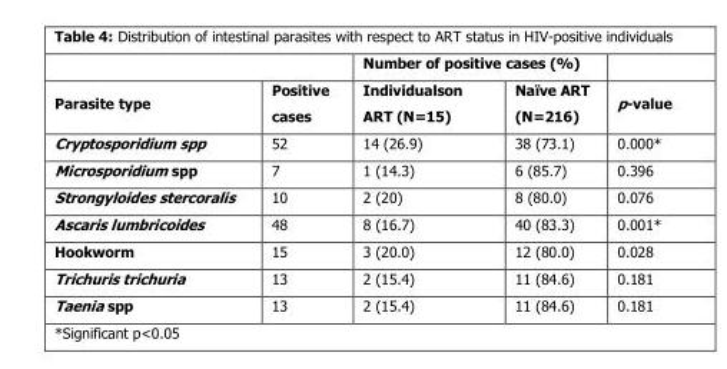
<table><thead><tr><td rowspan="2">Parasite type</td><td rowspan="2">Positive cases</td><td colspan="2">Number of positive cases (%)</td><td rowspan="2">p-value</td></tr><tr><td>Individualson ART (N=15)</td><td>Naïve ART (N=216)</td></tr></thead><tbody><tr><td>Cryptosporidium spp</td><td>52</td><td>14 (26.9)</td><td>38 (73.1)</td><td>0.000*</td></tr><tr><td>Microsporidium spp</td><td>7</td><td>1 (14.3)</td><td>6 (85.7)</td><td>0.396</td></tr><tr><td>Strongyloides stercoralis</td><td>10</td><td>2 (20)</td><td>8 (80.0)</td><td>0.076</td></tr><tr><td>Ascaris lumbricoides</td><td>48</td><td>8 (16.7)</td><td>40 (83.3)</td><td>0.001*</td></tr><tr><td>Hookworm</td><td>15</td><td>3 (20.0)</td><td>12 (80.0)</td><td>0.028</td></tr><tr><td>Trichuris trichuria</td><td>13</td><td>2 (15.4)</td><td>11 (84.6)</td><td>0.181</td></tr><tr><td>Taenia spp</td><td>13</td><td>2 (15.4)</td><td>11 (84.6)</td><td>0.181</td></tr></tbody></table>